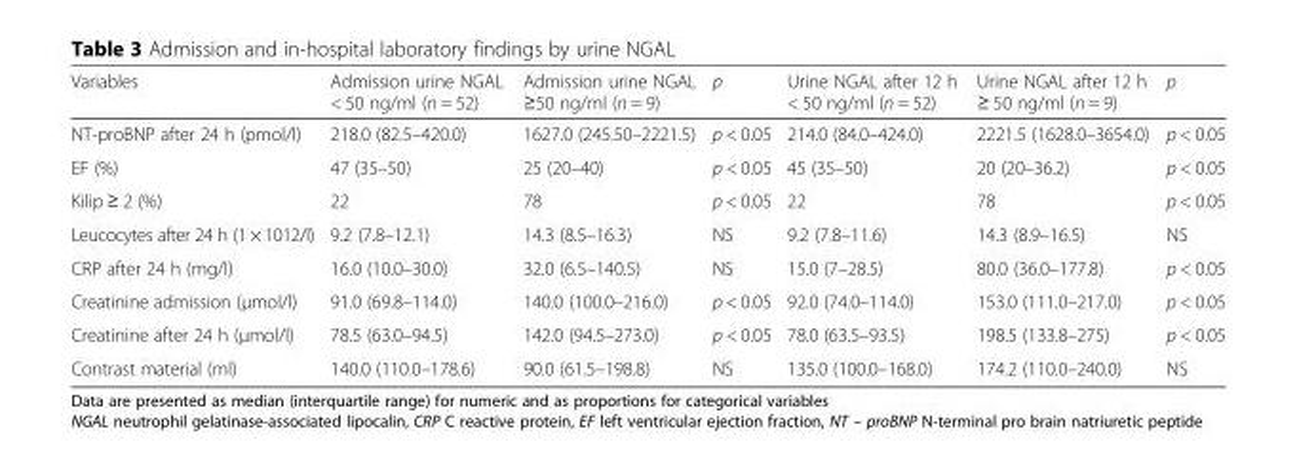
<table><thead><tr><td>Variables</td><td>Admission urine NGAL &lt; 50 ng/ml (n = 52)</td><td>Admission urine NGAL ≥50 ng/ml (n = 9)</td><td>p</td><td>Urine NGAL after 12 h &lt; 50 ng/ml (n = 52)</td><td>Urine NGAL after 12 h ≥ 50 ng/ml (n = 9)</td><td>p</td></tr></thead><tbody><tr><td>NT-proBNP after 24 h (pmol/l)</td><td>218.0 (82.5–420.0)</td><td>1627.0 (245.50–2221.5)</td><td>p &lt; 0.05</td><td>214.0 (84.0–424.0)</td><td>2221.5 (1628.0–3654.0)</td><td>p &lt; 0.05</td></tr><tr><td>EF (%)</td><td>47 (35–50)</td><td>25 (20–40)</td><td>p &lt; 0.05</td><td>45 (35–50)</td><td>20 (20–36.2)</td><td>p &lt; 0.05</td></tr><tr><td>Kilip ≥ 2 (%)</td><td>22</td><td>78</td><td>p &lt; 0.05</td><td>22</td><td>78</td><td>p &lt; 0.05</td></tr><tr><td>Leucocytes after 24 h (1 × 1012/l)</td><td>9.2 (7.8–12.1)</td><td>14.3 (8.5–16.3)</td><td>NS</td><td>9.2 (7.8–11.6)</td><td>14.3 (8.9–16.5)</td><td>NS</td></tr><tr><td>CRP after 24 h (mg/l)</td><td>16.0 (10.0–30.0)</td><td>32.0 (6.5–140.5)</td><td>NS</td><td>15.0 (7–28.5)</td><td>80.0 (36.0–177.8)</td><td>p &lt; 0.05</td></tr><tr><td>Creatinine admission (μmol/l)</td><td>91.0 (69.8–114.0)</td><td>140.0 (100.0–216.0)</td><td>p &lt; 0.05</td><td>92.0 (74.0–114.0)</td><td>153.0 (111.0–217.0)</td><td>p &lt; 0.05</td></tr><tr><td>Creatinine after 24 h (μmol/l)</td><td>78.5 (63.0–94.5)</td><td>142.0 (94.5–273.0)</td><td>p &lt; 0.05</td><td>78.0 (63.5–93.5)</td><td>198.5 (133.8–275)</td><td>p &lt; 0.05</td></tr><tr><td>Contrast material (ml)</td><td>140.0 (110.0–178.6)</td><td>90.0 (61.5–198.8)</td><td>NS</td><td>135.0 (100.0–168.0)</td><td>174.2 (110.0–240.0)</td><td>NS</td></tr></tbody></table>